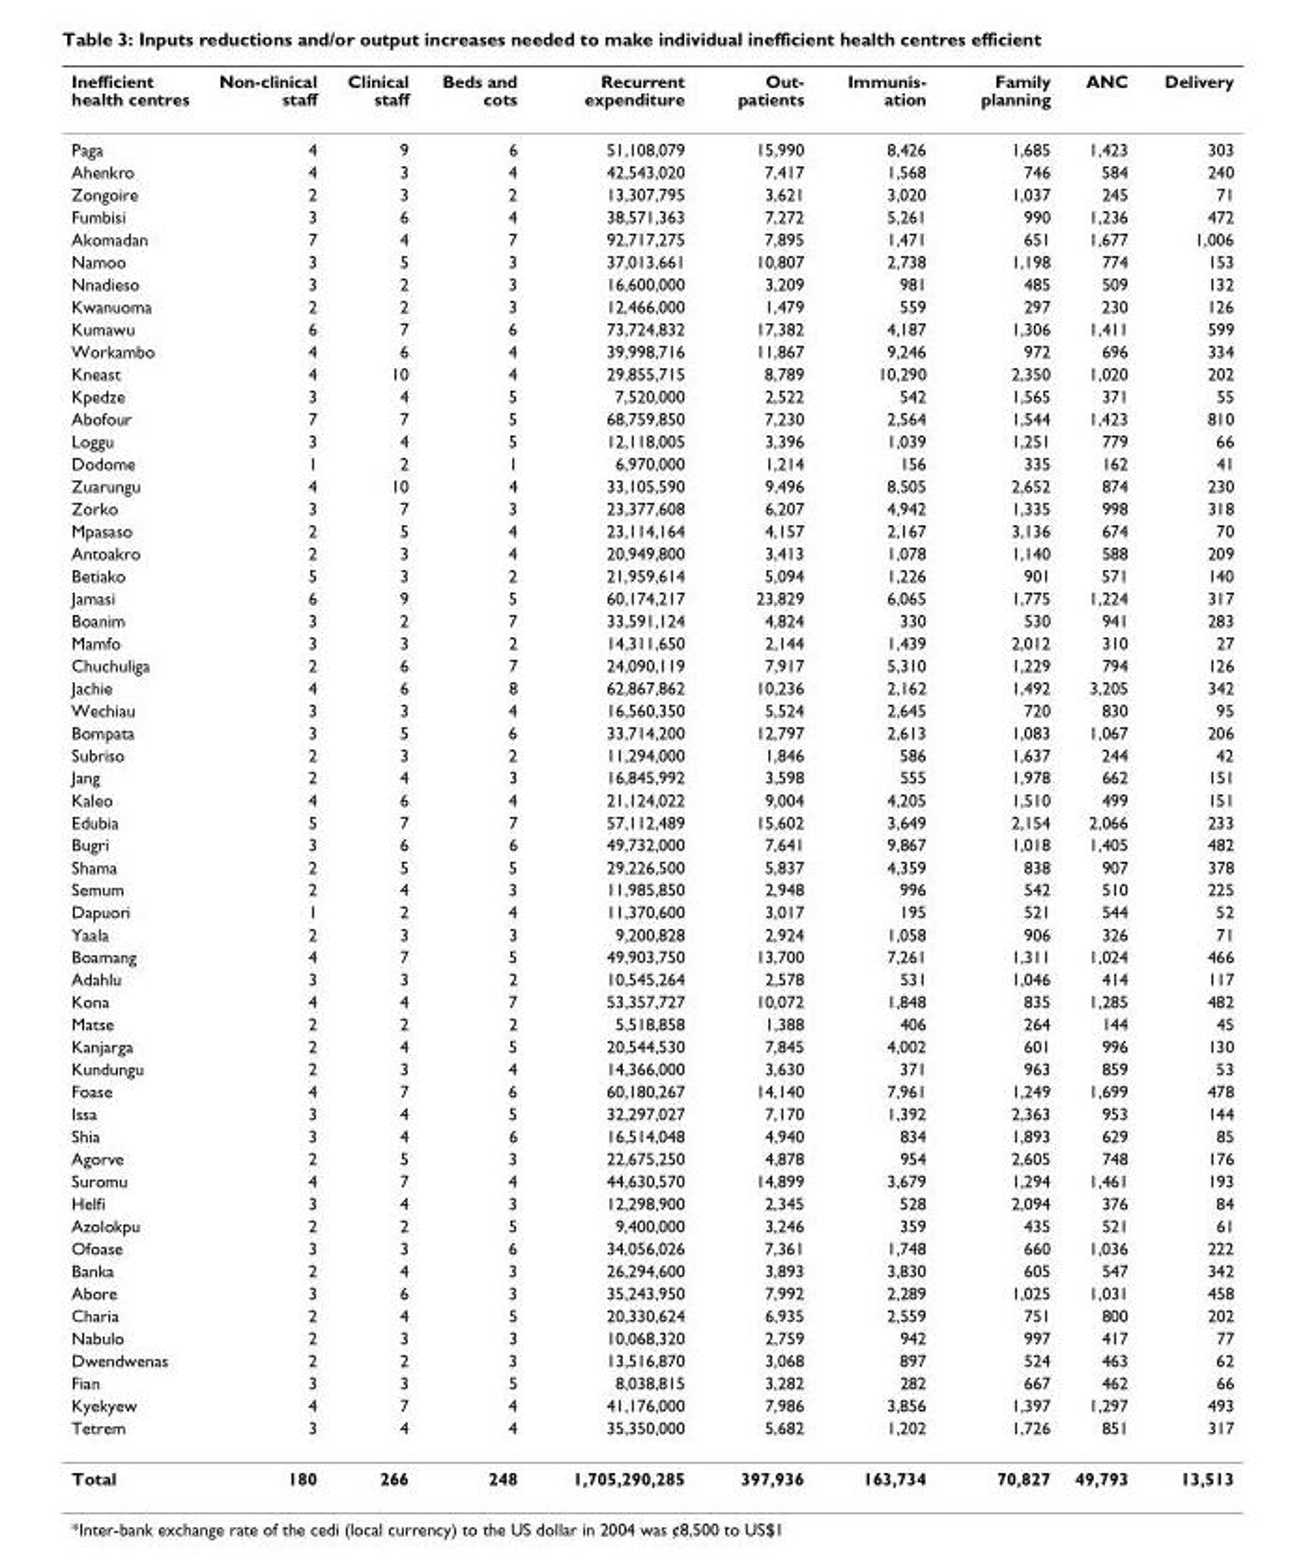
<table><thead><tr><td>Inefficient health centres</td><td>Non-clinical staff</td><td>Clinical staff</td><td>Beds and cots</td><td>Recurrent expenditure</td><td>Out- patients</td><td>Immunis- ation</td><td>Family planning</td><td>ANC</td><td>Delivery</td></tr></thead><tbody><tr><td>Paga</td><td>4</td><td>9</td><td>6</td><td>51,108,079</td><td>15,990</td><td>8,426</td><td>1,685</td><td>1,423</td><td>303</td></tr><tr><td>Ahenkro</td><td>4</td><td>3</td><td>4</td><td>42,543,020</td><td>7,417</td><td>1,568</td><td>746</td><td>584</td><td>240</td></tr><tr><td>Zongoire</td><td>2</td><td>3</td><td>2</td><td>13,307,795</td><td>3,621</td><td>3,020</td><td>1,037</td><td>245</td><td>71</td></tr><tr><td>Fumbisi</td><td>3</td><td>6</td><td>4</td><td>38,571,363</td><td>7,272</td><td>5,261</td><td>990</td><td>1,236</td><td>472</td></tr><tr><td>Akomadan</td><td>7</td><td>4</td><td>7</td><td>92,717,275</td><td>7,895</td><td>1,471</td><td>651</td><td>1,677</td><td>1,006</td></tr><tr><td>Namoo</td><td>3</td><td>5</td><td>3</td><td>37,013,661</td><td>10,807</td><td>2,738</td><td>1,198</td><td>774</td><td>153</td></tr><tr><td>Nnadieso</td><td>3</td><td>2</td><td>3</td><td>16,600,000</td><td>3,209</td><td>981</td><td>485</td><td>509</td><td>132</td></tr><tr><td>Kwanuoma</td><td>2</td><td>2</td><td>3</td><td>12,466,000</td><td>1,479</td><td>559</td><td>297</td><td>230</td><td>126</td></tr><tr><td>Kumawu</td><td>6</td><td>7</td><td>6</td><td>73,724,832</td><td>17,382</td><td>4,187</td><td>1,306</td><td>1,411</td><td>599</td></tr><tr><td>Workambo</td><td>4</td><td>6</td><td>4</td><td>39,998,716</td><td>11,867</td><td>9,246</td><td>972</td><td>696</td><td>334</td></tr><tr><td>Kneast</td><td>4</td><td>10</td><td>4</td><td>29,855,715</td><td>8,789</td><td>10,290</td><td>2,350</td><td>1,020</td><td>202</td></tr><tr><td>Kpedze</td><td>3</td><td>4</td><td>5</td><td>7,520,000</td><td>2,522</td><td>542</td><td>1,565</td><td>371</td><td>55</td></tr><tr><td>Abofour</td><td>7</td><td>7</td><td>5</td><td>68,759,850</td><td>7,230</td><td>2,564</td><td>1,544</td><td>1,423</td><td>810</td></tr><tr><td>Loggu</td><td>3</td><td>4</td><td>5</td><td>12,118,005</td><td>3,396</td><td>1,039</td><td>1,251</td><td>779</td><td>66</td></tr><tr><td>Dodome</td><td>1</td><td>2</td><td>1</td><td>6,970,000</td><td>1,214</td><td>156</td><td>335</td><td>162</td><td>41</td></tr><tr><td>Zuarungu</td><td>4</td><td>10</td><td>4</td><td>33,105,590</td><td>9,496</td><td>8,505</td><td>2,652</td><td>874</td><td>230</td></tr><tr><td>Zorko</td><td>3</td><td>7</td><td>3</td><td>23,377,608</td><td>6,207</td><td>4,942</td><td>1,335</td><td>998</td><td>318</td></tr><tr><td>Mpasaso</td><td>2</td><td>5</td><td>4</td><td>23,114,164</td><td>4,157</td><td>2,167</td><td>3,136</td><td>674</td><td>70</td></tr><tr><td>Antoakro</td><td>2</td><td>3</td><td>4</td><td>20,949,800</td><td>3,413</td><td>1,078</td><td>1,140</td><td>588</td><td>209</td></tr><tr><td>Betiako</td><td>5</td><td>3</td><td>2</td><td>21,959,614</td><td>5,094</td><td>1,226</td><td>901</td><td>571</td><td>140</td></tr><tr><td>Jamasi</td><td>6</td><td>9</td><td>5</td><td>60,174,217</td><td>23,829</td><td>6,065</td><td>1,775</td><td>1,224</td><td>317</td></tr><tr><td>Boanim</td><td>3</td><td>2</td><td>7</td><td>33,591,124</td><td>4,824</td><td>330</td><td>530</td><td>941</td><td>283</td></tr><tr><td>Mamfo</td><td>3</td><td>3</td><td>2</td><td>14,311,650</td><td>2,144</td><td>1,439</td><td>2,012</td><td>310</td><td>27</td></tr><tr><td>Chuchuliga</td><td>2</td><td>6</td><td>7</td><td>24,090,119</td><td>7,917</td><td>5,310</td><td>1,229</td><td>794</td><td>126</td></tr><tr><td>Jachie</td><td>4</td><td>6</td><td>8</td><td>62,867,862</td><td>10,236</td><td>2,162</td><td>1,492</td><td>3,205</td><td>342</td></tr><tr><td>Wechiau</td><td>3</td><td>3</td><td>4</td><td>16,560,350</td><td>5,524</td><td>2,645</td><td>720</td><td>830</td><td>95</td></tr><tr><td>Bompata</td><td>3</td><td>5</td><td>6</td><td>33,714,200</td><td>12,797</td><td>2,613</td><td>1,083</td><td>1,067</td><td>206</td></tr><tr><td>Subriso</td><td>2</td><td>3</td><td>2</td><td>11,294,000</td><td>1,846</td><td>586</td><td>1,637</td><td>244</td><td>42</td></tr><tr><td>Jang</td><td>2</td><td>4</td><td>3</td><td>16,845,992</td><td>3,598</td><td>555</td><td>1,978</td><td>662</td><td>151</td></tr><tr><td>Kaleo</td><td>4</td><td>6</td><td>4</td><td>21,124,022</td><td>9,004</td><td>4,205</td><td>1,510</td><td>499</td><td>151</td></tr><tr><td>Edubia</td><td>5</td><td>7</td><td>7</td><td>57,112,489</td><td>15,602</td><td>3,649</td><td>2,154</td><td>2,066</td><td>233</td></tr><tr><td>Bugri</td><td>3</td><td>6</td><td>6</td><td>49,732,000</td><td>7,641</td><td>9,867</td><td>1,018</td><td>1,405</td><td>482</td></tr><tr><td>Shama</td><td>2</td><td>5</td><td>5</td><td>29,226,500</td><td>5,837</td><td>4,359</td><td>838</td><td>907</td><td>378</td></tr><tr><td>Semum</td><td>2</td><td>4</td><td>3</td><td>11,985,850</td><td>2,948</td><td>996</td><td>542</td><td>510</td><td>225</td></tr><tr><td>Dapuori</td><td>1</td><td>2</td><td>4</td><td>11,370,600</td><td>3,017</td><td>195</td><td>521</td><td>544</td><td>52</td></tr><tr><td>Yaala</td><td>2</td><td>3</td><td>3</td><td>9,200,828</td><td>2,924</td><td>1,058</td><td>906</td><td>326</td><td>71</td></tr><tr><td>Boamang</td><td>4</td><td>7</td><td>5</td><td>49,903,750</td><td>13,700</td><td>7,261</td><td>1,311</td><td>1,024</td><td>466</td></tr><tr><td>Adahlu</td><td>3</td><td>3</td><td>2</td><td>10,545,264</td><td>2,578</td><td>531</td><td>1,046</td><td>414</td><td>117</td></tr><tr><td>Kona</td><td>4</td><td>4</td><td>7</td><td>53,357,727</td><td>10,072</td><td>1,848</td><td>835</td><td>1,285</td><td>482</td></tr><tr><td>Matse</td><td>2</td><td>2</td><td>2</td><td>5,518,858</td><td>1,388</td><td>406</td><td>264</td><td>144</td><td>45</td></tr><tr><td>Kanjarga</td><td>2</td><td>4</td><td>5</td><td>20,544,530</td><td>7,845</td><td>4,002</td><td>601</td><td>996</td><td>130</td></tr><tr><td>Kundungu</td><td>2</td><td>3</td><td>4</td><td>14,366,000</td><td>3,630</td><td>371</td><td>963</td><td>859</td><td>53</td></tr><tr><td>Foase</td><td>4</td><td>7</td><td>6</td><td>60,180,267</td><td>14,140</td><td>7,961</td><td>1,249</td><td>1,699</td><td>478</td></tr><tr><td>Issa</td><td>3</td><td>4</td><td>5</td><td>32,297,027</td><td>7,170</td><td>1,392</td><td>2,363</td><td>953</td><td>144</td></tr><tr><td>Shia</td><td>3</td><td>4</td><td>6</td><td>16,514,048</td><td>4,940</td><td>834</td><td>1,893</td><td>629</td><td>85</td></tr><tr><td>Agorve</td><td>2</td><td>5</td><td>3</td><td>22,675,250</td><td>4,878</td><td>954</td><td>2,605</td><td>748</td><td>176</td></tr><tr><td>Suromu</td><td>4</td><td>7</td><td>4</td><td>44,630,570</td><td>14,899</td><td>3,679</td><td>1,294</td><td>1,461</td><td>193</td></tr><tr><td>Helfi</td><td>3</td><td>4</td><td>3</td><td>12,298,900</td><td>2,345</td><td>528</td><td>2,094</td><td>376</td><td>84</td></tr><tr><td>Azolokpu</td><td>2</td><td>2</td><td>5</td><td>9,400,000</td><td>3,246</td><td>359</td><td>435</td><td>521</td><td>61</td></tr><tr><td>Ofoase</td><td>3</td><td>3</td><td>6</td><td>34,056,026</td><td>7,361</td><td>1,748</td><td>660</td><td>1,036</td><td>222</td></tr><tr><td>Banka</td><td>2</td><td>4</td><td>3</td><td>26,294,600</td><td>3,893</td><td>3,830</td><td>605</td><td>547</td><td>342</td></tr><tr><td>Abore</td><td>3</td><td>6</td><td>3</td><td>35,243,950</td><td>7,992</td><td>2,289</td><td>1,025</td><td>1,031</td><td>458</td></tr><tr><td>Charia</td><td>2</td><td>4</td><td>5</td><td>20,330,624</td><td>6,935</td><td>2,559</td><td>751</td><td>800</td><td>202</td></tr><tr><td>Nabulo</td><td>2</td><td>3</td><td>3</td><td>10,068,320</td><td>2,759</td><td>942</td><td>997</td><td>417</td><td>77</td></tr><tr><td>Dwendwenas</td><td>2</td><td>2</td><td>3</td><td>13,516,870</td><td>3,068</td><td>897</td><td>524</td><td>463</td><td>62</td></tr><tr><td>Fian</td><td>3</td><td>3</td><td>5</td><td>8,038,815</td><td>3,282</td><td>282</td><td>667</td><td>462</td><td>66</td></tr><tr><td>Kyekyew</td><td>4</td><td>7</td><td>4</td><td>41,176,000</td><td>7,986</td><td>3,856</td><td>1,397</td><td>1,297</td><td>493</td></tr><tr><td>Tetrem</td><td>3</td><td>4</td><td>4</td><td>35,350,000</td><td>5,682</td><td>1,202</td><td>1,726</td><td>851</td><td>317</td></tr><tr><td>Total</td><td>180</td><td>266</td><td>248</td><td>1,705,290,285</td><td>397,936</td><td>163,734</td><td>70,827</td><td>49,793</td><td>13,513</td></tr></tbody></table>